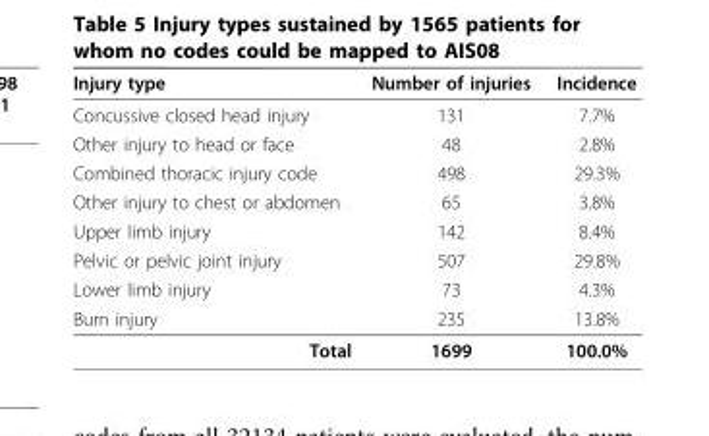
<table><thead><tr><td>Injury type</td><td>Number of injuries</td><td>Incidence</td></tr></thead><tbody><tr><td>Concussive closed head injury</td><td>131</td><td>7.7%</td></tr><tr><td>Other injury to head or face</td><td>48</td><td>2.8%</td></tr><tr><td>Combined thoracic injury code</td><td>498</td><td>29.3%</td></tr><tr><td>Other injury to chest or abdomen</td><td>65</td><td>3.8%</td></tr><tr><td>Upper limb injury</td><td>142</td><td>8.4%</td></tr><tr><td>Pelvic or pelvic joint injury</td><td>507</td><td>29.8%</td></tr><tr><td>Lower limb injury</td><td>73</td><td>4.3%</td></tr><tr><td>Burn injury</td><td>235</td><td>13.8%</td></tr><tr><td>Total</td><td>1699</td><td>100.0%</td></tr></tbody></table>